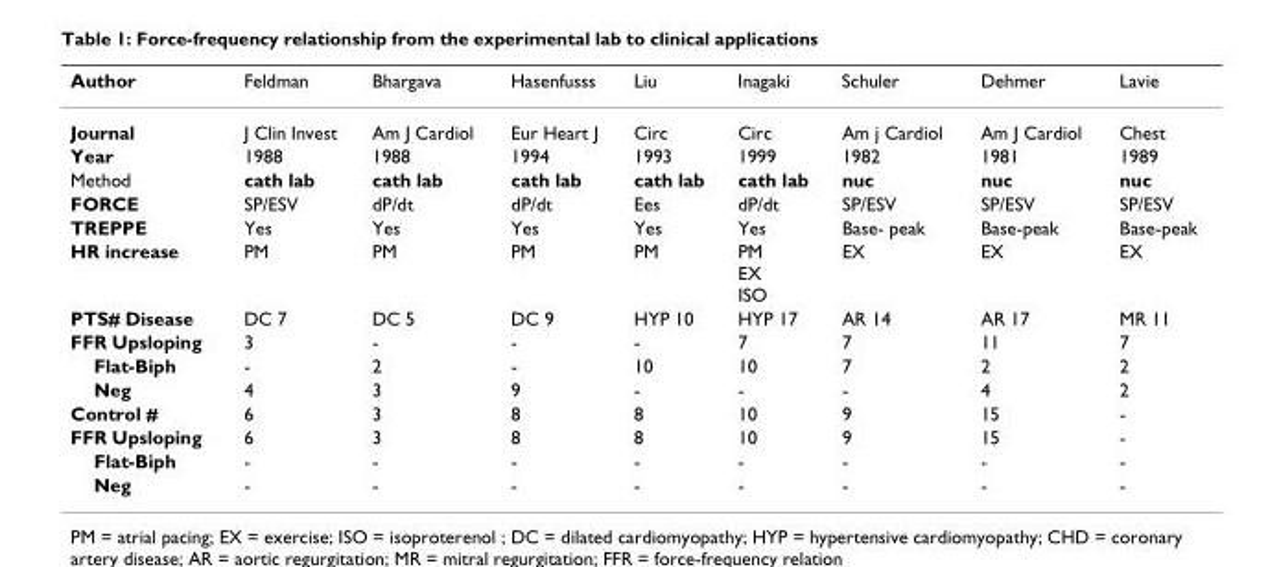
<table><thead><tr><td>Author</td><td>Feldman</td><td>Bhargava</td><td>Hasenfusss</td><td>Liu</td><td>Inagaki</td><td>Schuler</td><td>Dehmer</td><td>Lavie</td></tr></thead><tbody><tr><td>Journal</td><td>J Clin Invest</td><td>Am J Cardiol</td><td>Eur Heart J</td><td>Circ</td><td>Circ</td><td>Am j Cardiol</td><td>Am J Cardiol</td><td>Chest</td></tr><tr><td>Year</td><td>1988</td><td>1988</td><td>1994</td><td>1993</td><td>1999</td><td>1982</td><td>1981</td><td>1989</td></tr><tr><td>Method</td><td>cath lab</td><td>cath lab</td><td>cath lab</td><td>cath lab</td><td>cath lab</td><td>nuc</td><td>nuc</td><td>nuc</td></tr><tr><td>FORCE</td><td>SP/ESV</td><td>dP/dt</td><td>dP/dt</td><td>Ees</td><td>dP/dt</td><td>SP/ESV</td><td>SP/ESV</td><td>SP/ESV</td></tr><tr><td>TREPPE</td><td>Yes</td><td>Yes</td><td>Yes</td><td>Yes</td><td>Yes</td><td>Base- peak</td><td>Base-peak</td><td>Base-peak</td></tr><tr><td>HR increase</td><td>PM</td><td>PM</td><td>PM</td><td>PM</td><td>PM EX ISO</td><td>EX</td><td>EX</td><td>EX</td></tr><tr><td>PTS# Disease</td><td>DC 7</td><td>DC 5</td><td>DC 9</td><td>HYP 10</td><td>HYP 17</td><td>AR 14</td><td>AR 17</td><td>MR 11</td></tr><tr><td>FFR Upsloping</td><td>3</td><td>-</td><td>-</td><td>-</td><td>7</td><td>7</td><td>11</td><td>7</td></tr><tr><td>Flat-Biph</td><td>-</td><td>2</td><td>-</td><td>10</td><td>10</td><td>7</td><td>2</td><td>2</td></tr><tr><td>Neg</td><td>4</td><td>3</td><td>9</td><td>-</td><td>-</td><td>-</td><td>4</td><td>2</td></tr><tr><td>Control #</td><td>6</td><td>3</td><td>8</td><td>8</td><td>10</td><td>9</td><td>15</td><td>-</td></tr><tr><td>FFR Upsloping</td><td>6</td><td>3</td><td>8</td><td>8</td><td>10</td><td>9</td><td>15</td><td>-</td></tr><tr><td>Flat-Biph</td><td>-</td><td>-</td><td>-</td><td>-</td><td>-</td><td>-</td><td>-</td><td>-</td></tr><tr><td>Neg</td><td>-</td><td>-</td><td>-</td><td>-</td><td>-</td><td>-</td><td>-</td><td>-</td></tr></tbody></table>